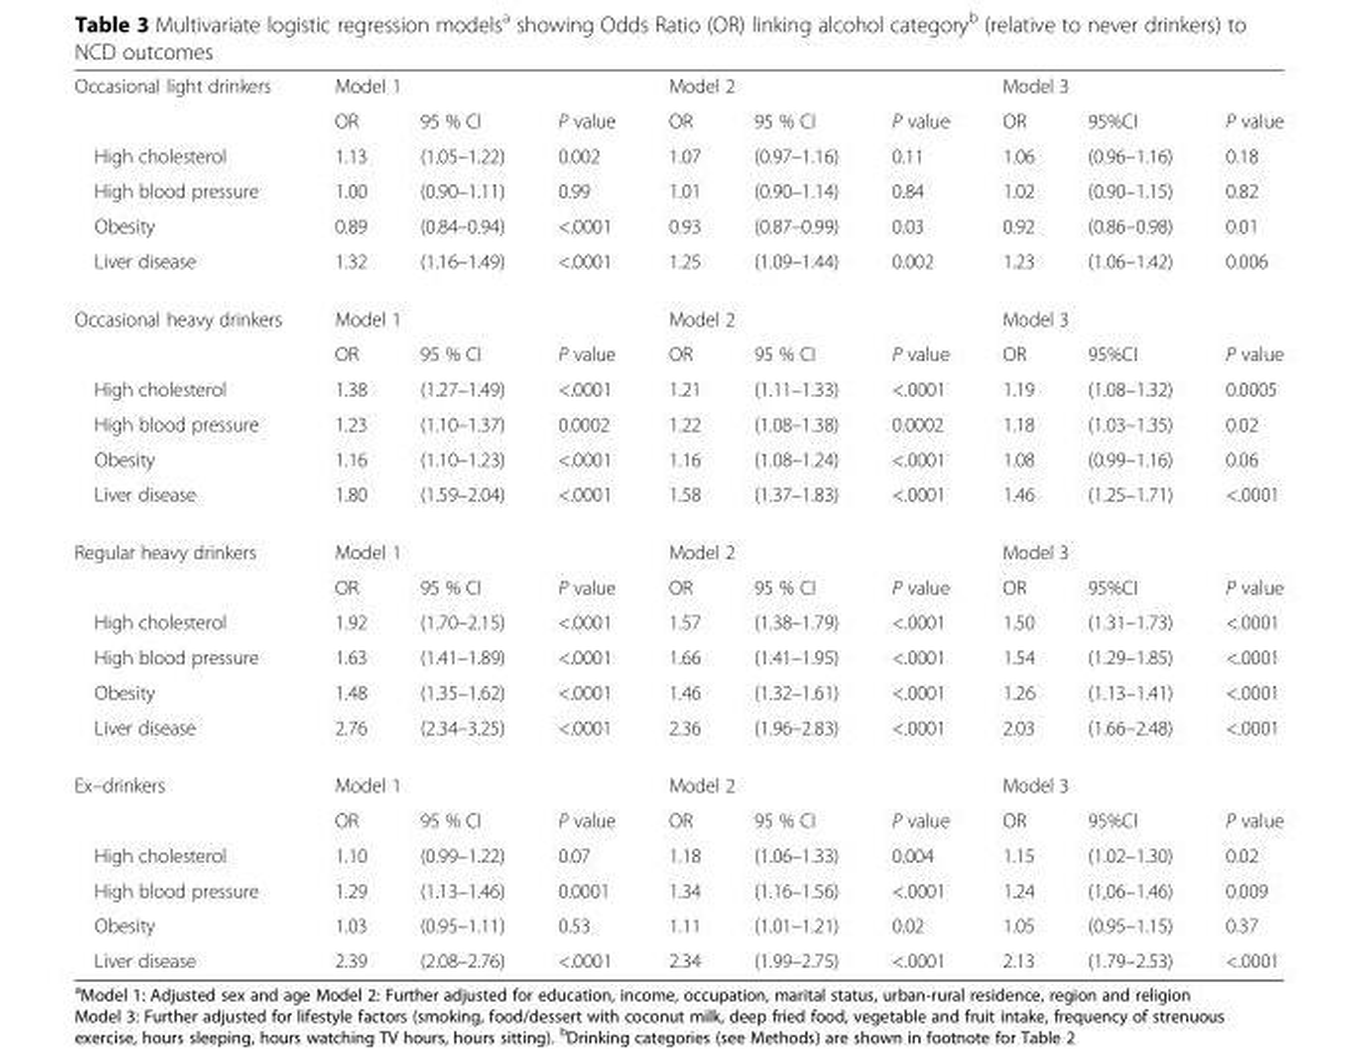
<table><tbody><tr><td rowspan="2">Occasional light drinkers</td><td colspan="3">Model 1</td><td colspan="3">Model 2</td><td colspan="3">Model 3</td></tr><tr><td>OR</td><td>95 % CI</td><td>P value</td><td>OR</td><td>95 % CI</td><td>P value</td><td>OR</td><td>95%CI</td><td>P value</td></tr><tr><td>High cholesterol</td><td>1.13</td><td>(1.05–1.22)</td><td>0.002</td><td>1.07</td><td>(0.97–1.16)</td><td>0.11</td><td>1.06</td><td>(0.96–1.16)</td><td>0.18</td></tr><tr><td>High blood pressure</td><td>1.00</td><td>(0.90–1.11)</td><td>0.99</td><td>1.01</td><td>(0.90–1.14)</td><td>0.84</td><td>1.02</td><td>(0.90–1.15)</td><td>0.82</td></tr><tr><td>Obesity</td><td>0.89</td><td>(0.84–0.94)</td><td>&lt;.0001</td><td>0.93</td><td>(0.87–0.99)</td><td>0.03</td><td>0.92</td><td>(0.86–0.98)</td><td>0.01</td></tr><tr><td>Liver disease</td><td>1.32</td><td>(1.16–1.49)</td><td>&lt;.0001</td><td>1.25</td><td>(1.09–1.44)</td><td>0.002</td><td>1.23</td><td>(1.06–1.42)</td><td>0.006</td></tr><tr><td rowspan="2">Occasional heavy drinkers</td><td colspan="3">Model 1</td><td colspan="3">Model 2</td><td colspan="3">Model 3</td></tr><tr><td>OR</td><td>95 % CI</td><td>P value</td><td>OR</td><td>95 % CI</td><td>P value</td><td>OR</td><td>95%CI</td><td>P value</td></tr><tr><td>High cholesterol</td><td>1.38</td><td>(1.27–1.49)</td><td>&lt;.0001</td><td>1.21</td><td>(1.11–1.33)</td><td>&lt;.0001</td><td>1.19</td><td>(1.08–1.32)</td><td>0.0005</td></tr><tr><td>High blood pressure</td><td>1.23</td><td>(1.10–1.37)</td><td>0.0002</td><td>1.22</td><td>(1.08–1.38)</td><td>0.0002</td><td>1.18</td><td>(1.03–1.35)</td><td>0.02</td></tr><tr><td>Obesity</td><td>1.16</td><td>(1.10–1.23)</td><td>&lt;.0001</td><td>1.16</td><td>(1.08–1.24)</td><td>&lt;.0001</td><td>1.08</td><td>(0.99–1.16)</td><td>0.06</td></tr><tr><td>Liver disease</td><td>1.80</td><td>(1.59–2.04)</td><td>&lt;.0001</td><td>1.58</td><td>(1.37–1.83)</td><td>&lt;.0001</td><td>1.46</td><td>(1.25–1.71)</td><td>&lt;.0001</td></tr><tr><td rowspan="2">Regular heavy drinkers</td><td colspan="3">Model 1</td><td colspan="3">Model 2</td><td colspan="3">Model 3</td></tr><tr><td>OR</td><td>95 % CI</td><td>P value</td><td>OR</td><td>95 % CI</td><td>P value</td><td>OR</td><td>95%CI</td><td>P value</td></tr><tr><td>High cholesterol</td><td>1.92</td><td>(1.70–2.15)</td><td>&lt;.0001</td><td>1.57</td><td>(1.38–1.79)</td><td>&lt;.0001</td><td>1.50</td><td>(1.31–1.73)</td><td>&lt;.0001</td></tr><tr><td>High blood pressure</td><td>1.63</td><td>(1.41–1.89)</td><td>&lt;.0001</td><td>1.66</td><td>(1.41–1.95)</td><td>&lt;.0001</td><td>1.54</td><td>(1.29–1.85)</td><td>&lt;.0001</td></tr><tr><td>Obesity</td><td>1.48</td><td>(1.35–1.62)</td><td>&lt;.0001</td><td>1.46</td><td>(1.32–1.61)</td><td>&lt;.0001</td><td>1.26</td><td>(1.13–1.41)</td><td>&lt;.0001</td></tr><tr><td>Liver disease</td><td>2.76</td><td>(2.34–3.25)</td><td>&lt;.0001</td><td>2.36</td><td>(1.96–2.83)</td><td>&lt;.0001</td><td>2.03</td><td>(1.66–2.48)</td><td>&lt;.0001</td></tr><tr><td rowspan="2">Ex–drinkers</td><td colspan="3">Model 1</td><td colspan="3">Model 2</td><td colspan="3">Model 3</td></tr><tr><td>OR</td><td>95 % CI</td><td>P value</td><td>OR</td><td>95 % CI</td><td>P value</td><td>OR</td><td>95%CI</td><td>P value</td></tr><tr><td>High cholesterol</td><td>1.10</td><td>(0.99–1.22)</td><td>0.07</td><td>1.18</td><td>(1.06–1.33)</td><td>0.004</td><td>1.15</td><td>(1.02–1.30)</td><td>0.02</td></tr><tr><td>High blood pressure</td><td>1.29</td><td>(1.13–1.46)</td><td>0.0001</td><td>1.34</td><td>(1.16–1.56)</td><td>&lt;.0001</td><td>1.24</td><td>(1,06–1.46)</td><td>0.009</td></tr><tr><td>Obesity</td><td>1.03</td><td>(0.95–1.11)</td><td>0.53</td><td>1.11</td><td>(1.01–1.21)</td><td>0.02</td><td>1.05</td><td>(0.95–1.15)</td><td>0.37</td></tr><tr><td>Liver disease</td><td>2.39</td><td>(2.08–2.76)</td><td>&lt;.0001</td><td>2.34</td><td>(1.99–2.75)</td><td>&lt;.0001</td><td>2.13</td><td>(1.79–2.53)</td><td>&lt;.0001</td></tr></tbody></table>